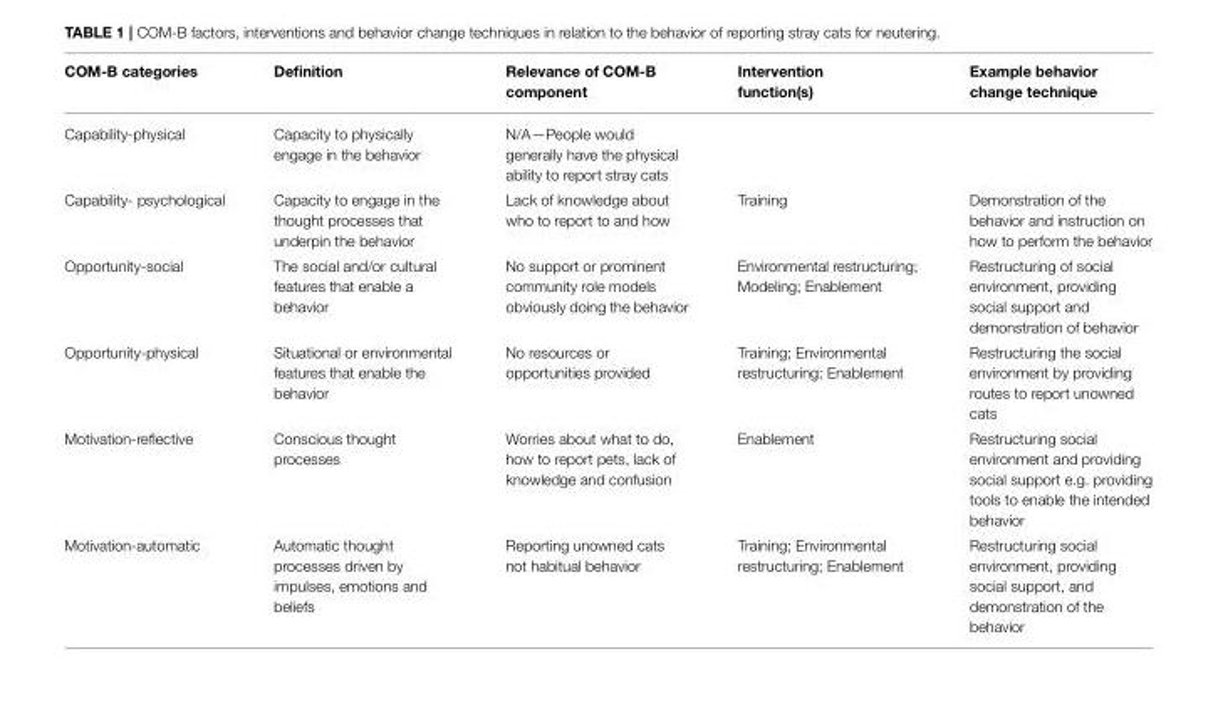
<table><thead><tr><td>COM-B categories</td><td>Definition</td><td>Relevance of COM-B component</td><td>Intervention function(s)</td><td>Example behavior change technique</td></tr></thead><tbody><tr><td>Capability-physical</td><td>Capacity to physically engage in the behavior</td><td>N/A—People would generally have the physical ability to report stray cats</td><td></td><td></td></tr><tr><td>Capability- psychological</td><td>Capacity to engage in the thought processes that underpin the behavior</td><td>Lack of knowledge about who to report to and how</td><td>Training</td><td>Demonstration of the behavior and instruction on how to perform the behavior</td></tr><tr><td>Opportunity-social</td><td>The social and/or cultural features that enable a behavior</td><td>No support or prominent community role models obviously doing the behavior</td><td>Environmental restructuring; Modeling; Enablement</td><td>Restructuring of social environment, providing social support and demonstration of behavior</td></tr><tr><td>Opportunity-physical</td><td>Situational or environmental features that enable the behavior</td><td>No resources or opportunities provided</td><td>Training; Environmental restructuring; Enablement</td><td>Restructuring the social environment by providing routes to report unowned cats</td></tr><tr><td>Motivation-reflective</td><td>Conscious thought processes</td><td>Worries about what to do, how to report pets, lack of knowledge and confusion</td><td>Enablement</td><td>Restructuring social environment and providing social support e.g. providing tools to enable the intended behavior</td></tr><tr><td>Motivation-automatic</td><td>Automatic thought processes driven by impulses, emotions and beliefs</td><td>Reporting unowned cats not habitual behavior</td><td>Training; Environmental restructuring; Enablement</td><td>Restructuring social environment, providing social support, and demonstration of the behavior</td></tr></tbody></table>